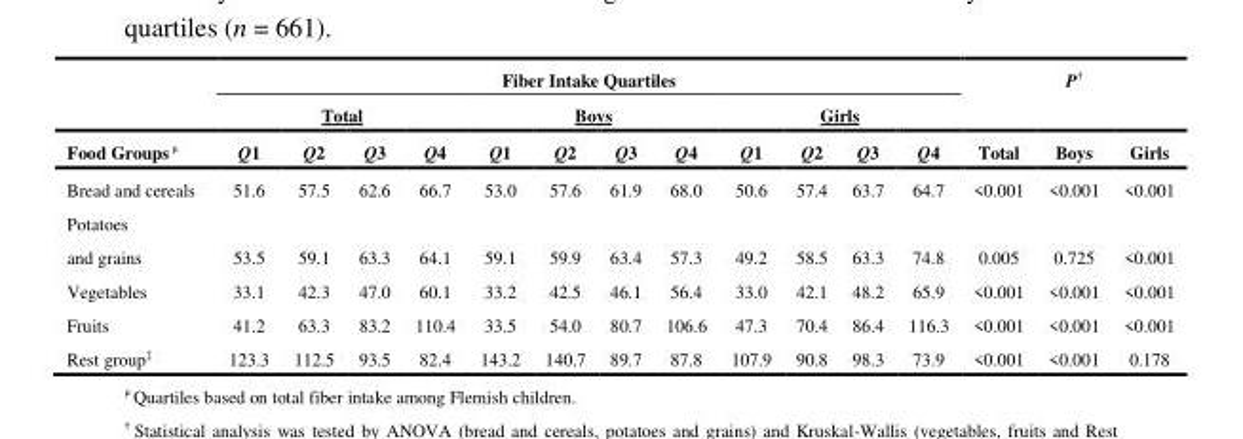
<table><thead><tr><td rowspan="3">Food Groups <sup>μ</sup></td><td colspan="12">Fiber Intake Quartiles</td><td rowspan="2" colspan="3">P<sup>†</sup></td></tr><tr><td colspan="4">Total</td><td colspan="4">Boys</td><td colspan="4">Girls</td></tr><tr><td>Q1</td><td>Q2</td><td>Q3</td><td>Q4</td><td>Q1</td><td>Q2</td><td>Q3</td><td>Q4</td><td>Q1</td><td>Q2</td><td>Q3</td><td>Q4</td><td>Total</td><td>Boys</td><td>Girls</td></tr></thead><tbody><tr><td>Bread and cereals</td><td>51.6</td><td>57.5</td><td>62.6</td><td>66.7</td><td>53.0</td><td>57.6</td><td>61.9</td><td>68.0</td><td>50.6</td><td>57.4</td><td>63.7</td><td>64.7</td><td>&lt;0.001</td><td>&lt;0.001</td><td>&lt;0.001</td></tr><tr><td>Potatoes and grains</td><td>53.5</td><td>59.1</td><td>63.3</td><td>64.1</td><td>59.1</td><td>59.9</td><td>63.4</td><td>57.3</td><td>49.2</td><td>58.5</td><td>63.3</td><td>74.8</td><td>0.005</td><td>0.725</td><td>&lt;0.001</td></tr><tr><td>Vegetables</td><td>33.1</td><td>42.3</td><td>47.0</td><td>60.1</td><td>33.2</td><td>42.5</td><td>46.1</td><td>56.4</td><td>33.0</td><td>42.1</td><td>48.2</td><td>65.9</td><td>&lt;0.001</td><td>&lt;0.001</td><td>&lt;0.001</td></tr><tr><td>Fruits</td><td>41.2</td><td>63.3</td><td>83.2</td><td>110.4</td><td>33.5</td><td>54.0</td><td>80.7</td><td>106.6</td><td>47.3</td><td>70.4</td><td>86.4</td><td>116.3</td><td>&lt;0.001</td><td>&lt;0.001</td><td>&lt;0.001</td></tr><tr><td>Rest group<sup>‡</sup></td><td>123.3</td><td>112.5</td><td>93.5</td><td>82.4</td><td>143.2</td><td>140.7</td><td>89.7</td><td>87.8</td><td>107.9</td><td>90.8</td><td>98.3</td><td>73.9</td><td>&lt;0.001</td><td>&lt;0.001</td><td>0.178</td></tr></tbody></table>